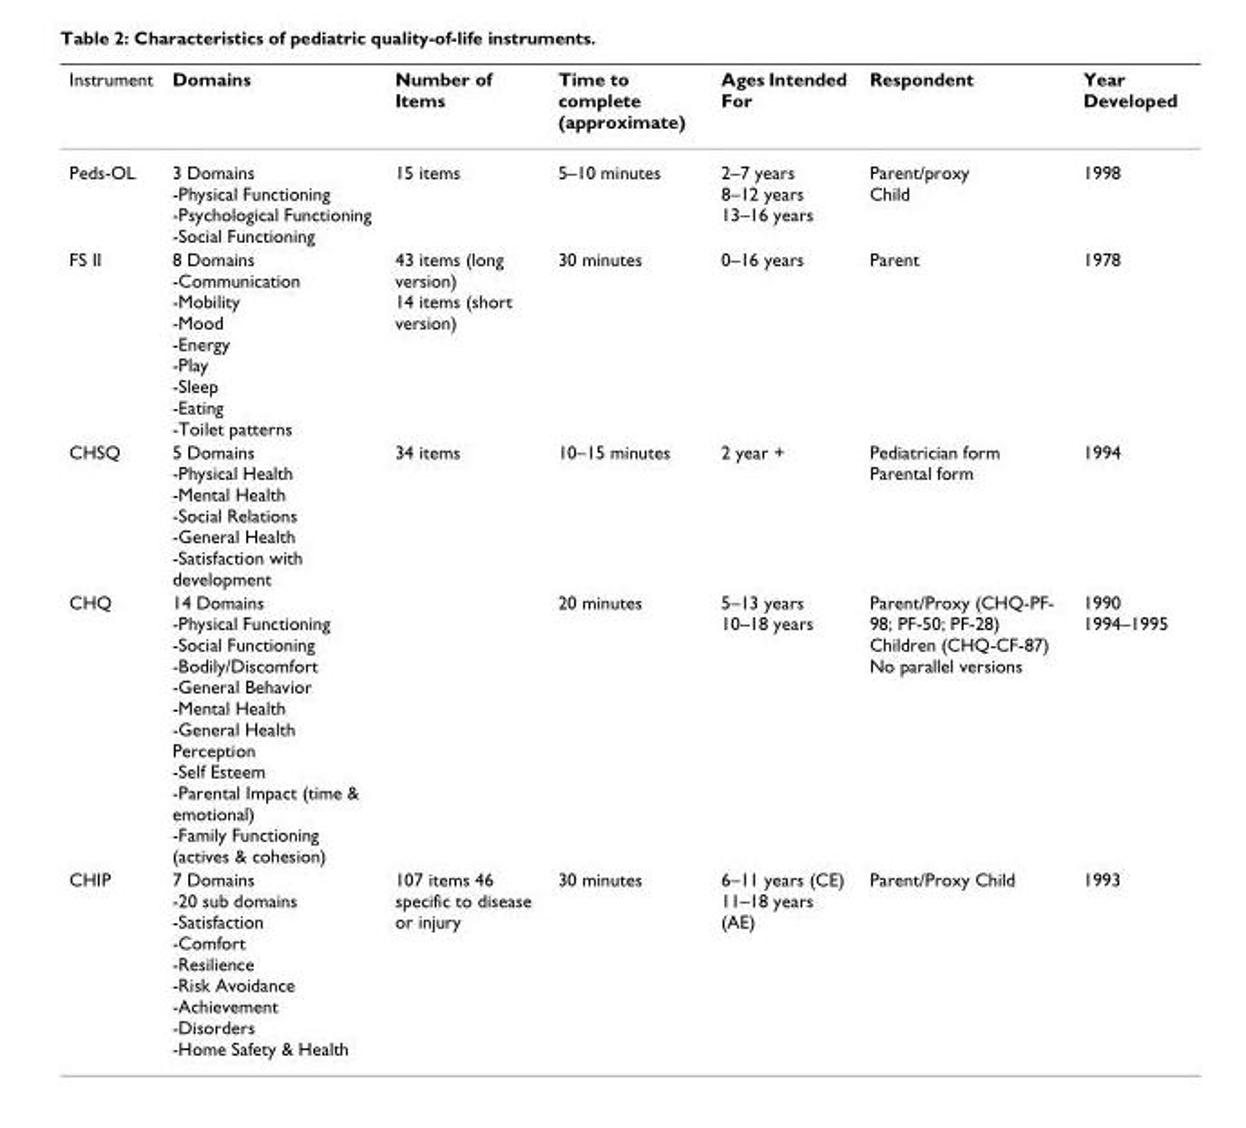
<table><thead><tr><td>Instrument</td><td>Domains</td><td>Number of Items</td><td>Time to complete (approximate)</td><td>Ages Intended For</td><td>Respondent</td><td>Year Developed</td></tr></thead><tbody><tr><td>Peds-OL</td><td>3 Domains -Physical Functioning -Psychological Functioning -Social Functioning</td><td>15 items</td><td>5–10 minutes</td><td>2–7 years 8–12 years 13–16 years</td><td>Parent/proxy Child</td><td>1998</td></tr><tr><td>FS II</td><td>8 Domains -Communication -Mobility -Mood -Energy -Play -Sleep -Eating -Toilet patterns</td><td>43 items (long version) 14 items (short version)</td><td>30 minutes</td><td>0–16 years</td><td>Parent</td><td>1978</td></tr><tr><td>CHSQ</td><td>5 Domains -Physical Health -Mental Health -Social Relations -General Health -Satisfaction with development</td><td>34 items</td><td>10–15 minutes</td><td>2 year +</td><td>Pediatrician form Parental form</td><td>1994</td></tr><tr><td>CHQ</td><td>14 Domains -Physical Functioning -Social Functioning -Bodily/Discomfort -General Behavior -Mental Health -General Health Perception -Self Esteem -Parental Impact (time &amp; emotional) -Family Functioning (actives &amp; cohesion)</td><td></td><td>20 minutes</td><td>5–13 years 10–18 years</td><td>Parent/Proxy (CHQ-PF- 98; PF-50; PF-28) Children (CHQ-CF-87) No parallel versions</td><td>1990 1994–1995</td></tr><tr><td>CHIP</td><td>7 Domains -20 sub domains -Satisfaction -Comfort -Resilience -Risk Avoidance -Achievement -Disorders -Home Safety &amp; Health</td><td>107 items 46 specific to disease or injury</td><td>30 minutes</td><td>6–11 years (CE) 11–18 years (AE)</td><td>Parent/Proxy Child</td><td>1993</td></tr></tbody></table>